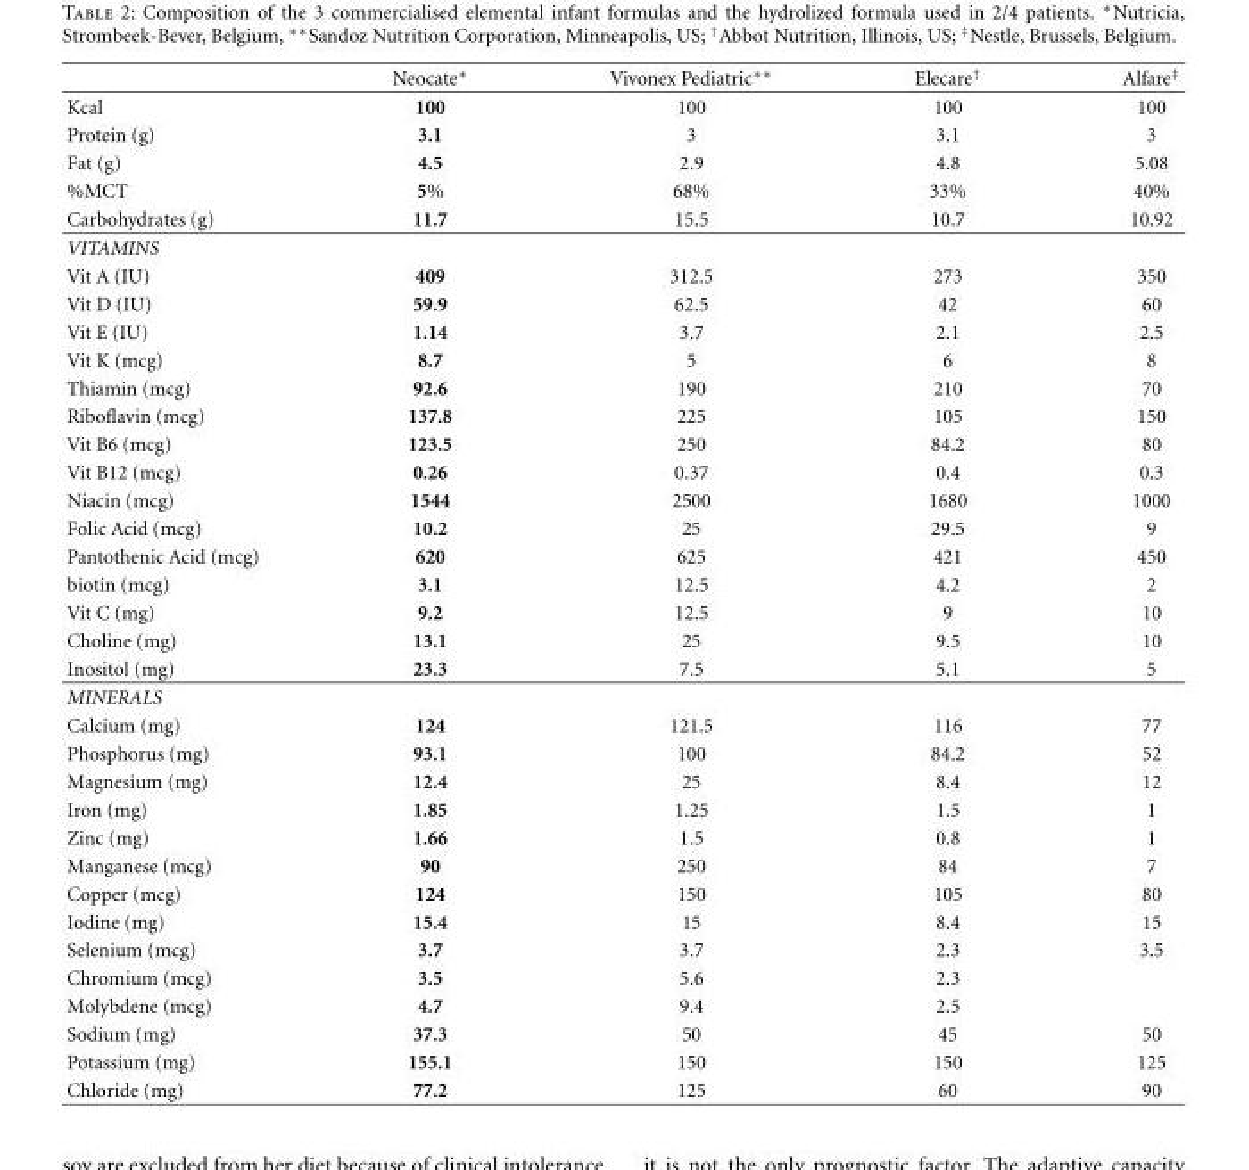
<table><thead><tr><td></td><td>Neocate∗</td><td>Vivonex Pediatric∗∗</td><td>Elecare<sup>†</sup></td><td>Alfare<sup>‡</sup></td></tr></thead><tbody><tr><td>Kcal</td><td>100</td><td>100</td><td>100</td><td>100</td></tr><tr><td>Protein (g)</td><td>3.1</td><td>3</td><td>3.1</td><td>3</td></tr><tr><td>Fat (g)</td><td>4.5</td><td>2.9</td><td>4.8</td><td>5.08</td></tr><tr><td>%MCT</td><td>5%</td><td>68%</td><td>33%</td><td>40%</td></tr><tr><td>Carbohydrates (g)</td><td>11.7</td><td>15.5</td><td>10.7</td><td>10.92</td></tr><tr><td colspan="5">VITAMINS</td></tr><tr><td>Vit A (IU)</td><td>409</td><td>312.5</td><td>273</td><td>350</td></tr><tr><td>Vit D (IU)</td><td>59.9</td><td>62.5</td><td>42</td><td>60</td></tr><tr><td>Vit E (IU)</td><td>1.14</td><td>3.7</td><td>2.1</td><td>2.5</td></tr><tr><td>Vit K (mcg)</td><td>8.7</td><td>5</td><td>6</td><td>8</td></tr><tr><td>Thiamin (mcg)</td><td>92.6</td><td>190</td><td>210</td><td>70</td></tr><tr><td>Riboflavin (mcg)</td><td>137.8</td><td>225</td><td>105</td><td>150</td></tr><tr><td>Vit B6 (mcg)</td><td>123.5</td><td>250</td><td>84.2</td><td>80</td></tr><tr><td>Vit B12 (mcg)</td><td>0.26</td><td>0.37</td><td>0.4</td><td>0.3</td></tr><tr><td>Niacin (mcg)</td><td>1544</td><td>2500</td><td>1680</td><td>1000</td></tr><tr><td>Folic Acid (mcg)</td><td>10.2</td><td>25</td><td>29.5</td><td>9</td></tr><tr><td>Pantothenic Acid (mcg)</td><td>620</td><td>625</td><td>421</td><td>450</td></tr><tr><td>biotin (mcg)</td><td>3.1</td><td>12.5</td><td>4.2</td><td>2</td></tr><tr><td>Vit C (mg)</td><td>9.2</td><td>12.5</td><td>9</td><td>10</td></tr><tr><td>Choline (mg)</td><td>13.1</td><td>25</td><td>9.5</td><td>10</td></tr><tr><td>Inositol (mg)</td><td>23.3</td><td>7.5</td><td>5.1</td><td>5</td></tr><tr><td colspan="5">MINERALS</td></tr><tr><td>Calcium (mg)</td><td>124</td><td>121.5</td><td>116</td><td>77</td></tr><tr><td>Phosphorus (mg)</td><td>93.1</td><td>100</td><td>84.2</td><td>52</td></tr><tr><td>Magnesium (mg)</td><td>12.4</td><td>25</td><td>8.4</td><td>12</td></tr><tr><td>Iron (mg)</td><td>1.85</td><td>1.25</td><td>1.5</td><td>1</td></tr><tr><td>Zinc (mg)</td><td>1.66</td><td>1.5</td><td>0.8</td><td>1</td></tr><tr><td>Manganese (mcg)</td><td>90</td><td>250</td><td>84</td><td>7</td></tr><tr><td>Copper (mcg)</td><td>124</td><td>150</td><td>105</td><td>80</td></tr><tr><td>Iodine (mg)</td><td>15.4</td><td>15</td><td>8.4</td><td>15</td></tr><tr><td>Selenium (mcg)</td><td>3.7</td><td>3.7</td><td>2.3</td><td>3.5</td></tr><tr><td>Chromium (mcg)</td><td>3.5</td><td>5.6</td><td>2.3</td><td></td></tr><tr><td>Molybdene (mcg)</td><td>4.7</td><td>9.4</td><td>2.5</td><td></td></tr><tr><td>Sodium (mg)</td><td>37.3</td><td>50</td><td>45</td><td>50</td></tr><tr><td>Potassium (mg)</td><td>155.1</td><td>150</td><td>150</td><td>125</td></tr><tr><td>Chloride (mg)</td><td>77.2</td><td>125</td><td>60</td><td>90</td></tr></tbody></table>